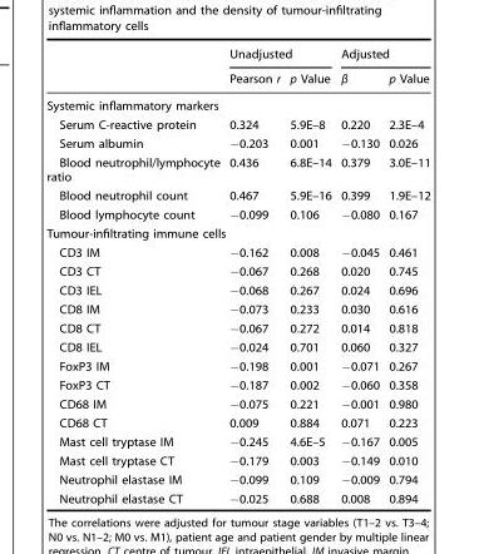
<table><thead><tr><td rowspan="2"></td><td colspan="2">Unadjusted</td><td colspan="2">Adjusted</td></tr><tr><td>Pearson r</td><td>p Value</td><td>β</td><td>p Value</td></tr></thead><tbody><tr><td colspan="5">Systemic inflammatory markers</td></tr><tr><td>Serum C-reactive protein</td><td>0.324</td><td>5.9E–8</td><td>0.220</td><td>2.3E–4</td></tr><tr><td>Serum albumin</td><td>−0.203</td><td>0.001</td><td>−0.130</td><td>0.026</td></tr><tr><td>Blood neutrophil/lymphocyte ratio</td><td>0.436</td><td>6.8E–14</td><td>0.379</td><td>3.0E–11</td></tr><tr><td>Blood neutrophil count</td><td>0.467</td><td>5.9E–16</td><td>0.399</td><td>1.9E–12</td></tr><tr><td>Blood lymphocyte count</td><td>−0.099</td><td>0.106</td><td>−0.080</td><td>0.167</td></tr><tr><td colspan="5">Tumour-infiltrating immune cells</td></tr><tr><td>CD3 IM</td><td>−0.162</td><td>0.008</td><td>−0.045</td><td>0.461</td></tr><tr><td>CD3 CT</td><td>−0.067</td><td>0.268</td><td>0.020</td><td>0.745</td></tr><tr><td>CD3 IEL</td><td>−0.068</td><td>0.267</td><td>0.024</td><td>0.696</td></tr><tr><td>CD8 IM</td><td>−0.073</td><td>0.233</td><td>0.030</td><td>0.616</td></tr><tr><td>CD8 CT</td><td>−0.067</td><td>0.272</td><td>0.014</td><td>0.818</td></tr><tr><td>CD8 IEL</td><td>−0.024</td><td>0.701</td><td>0.060</td><td>0.327</td></tr><tr><td>FoxP3 IM</td><td>−0.198</td><td>0.001</td><td>−0.071</td><td>0.267</td></tr><tr><td>FoxP3 CT</td><td>−0.187</td><td>0.002</td><td>−0.060</td><td>0.358</td></tr><tr><td>CD68 IM</td><td>−0.075</td><td>0.221</td><td>−0.001</td><td>0.980</td></tr><tr><td>CD68 CT</td><td>0.009</td><td>0.884</td><td>0.071</td><td>0.223</td></tr><tr><td>Mast cell tryptase IM</td><td>−0.245</td><td>4.6E–5</td><td>−0.167</td><td>0.005</td></tr><tr><td>Mast cell tryptase CT</td><td>−0.179</td><td>0.003</td><td>−0.149</td><td>0.010</td></tr><tr><td>Neutrophil elastase IM</td><td>−0.099</td><td>0.109</td><td>−0.009</td><td>0.794</td></tr><tr><td>Neutrophil elastase CT</td><td>−0.025</td><td>0.688</td><td>0.008</td><td>0.894</td></tr></tbody></table>